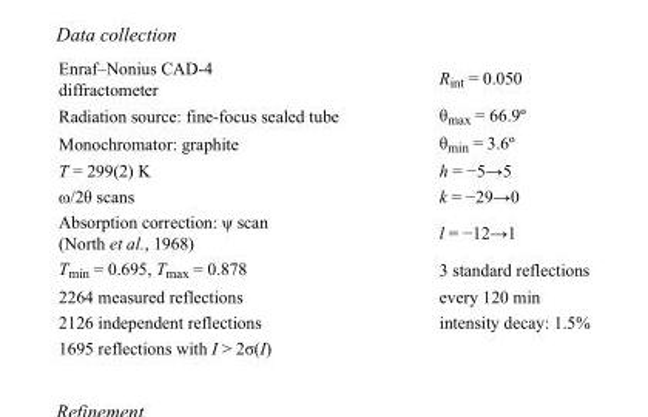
<table><tbody><tr><td>Enraf–Nonius CAD-4 diffractometer</td><td>R<sub>int</sub> = 0.050</td></tr><tr><td>Radiation source: fine-focus sealed tube</td><td>θ<sub>max</sub> = 66.9º</td></tr><tr><td>Monochromator: graphite</td><td>θ<sub>min</sub> = 3.6º</td></tr><tr><td>T = 299(2) K</td><td>h = −5→5</td></tr><tr><td>ω/2θ scans</td><td>k = −29→0</td></tr><tr><td>Absorption correction: ψ scan (North et al., 1968)</td><td>l = −12→1</td></tr><tr><td>T<sub>min</sub> = 0.695, T<sub>max</sub> = 0.878</td><td>3 standard reflections</td></tr><tr><td>2264 measured reflections</td><td>every 120 min</td></tr><tr><td>2126 independent reflections</td><td>intensity decay: 1.5%</td></tr><tr><td>1695 reflections with I &gt; 2σ(I)</td><td></td></tr></tbody></table>